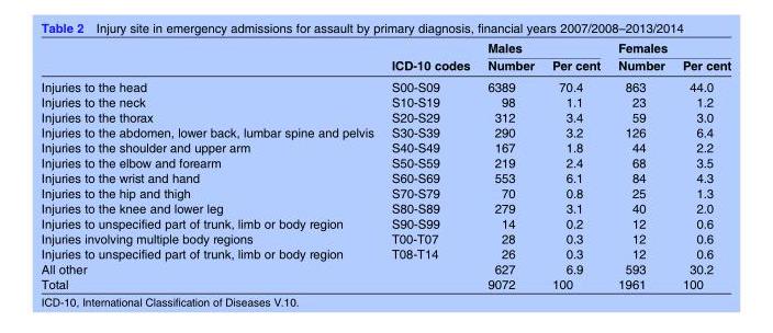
<table><thead><tr><td rowspan="2"></td><td rowspan="2">ICD-10 codes</td><td colspan="2">Males</td><td colspan="2">Females</td></tr><tr><td>Number</td><td>Per cent</td><td>Number</td><td>Per cent</td></tr></thead><tbody><tr><td>Injuries to the head</td><td>S00-S09</td><td>6389</td><td>70.4</td><td>863</td><td>44.0</td></tr><tr><td>Injuries to the neck</td><td>S10-S19</td><td>98</td><td>1.1</td><td>23</td><td>1.2</td></tr><tr><td>Injuries to the thorax</td><td>S20-S29</td><td>312</td><td>3.4</td><td>59</td><td>3.0</td></tr><tr><td>Injuries to the abdomen, lower back, lumbar spine and pelvis</td><td>S30-S39</td><td>290</td><td>3.2</td><td>126</td><td>6.4</td></tr><tr><td>Injuries to the shoulder and upper arm</td><td>S40-S49</td><td>167</td><td>1.8</td><td>44</td><td>2.2</td></tr><tr><td>Injuries to the elbow and forearm</td><td>S50-S59</td><td>219</td><td>2.4</td><td>68</td><td>3.5</td></tr><tr><td>Injuries to the wrist and hand</td><td>S60-S69</td><td>553</td><td>6.1</td><td>84</td><td>4.3</td></tr><tr><td>Injuries to the hip and thigh</td><td>S70-S79</td><td>70</td><td>0.8</td><td>25</td><td>1.3</td></tr><tr><td>Injuries to the knee and lower leg</td><td>S80-S89</td><td>279</td><td>3.1</td><td>40</td><td>2.0</td></tr><tr><td>Injuries to unspecified part of trunk, limb or body region</td><td>S90-S99</td><td>14</td><td>0.2</td><td>12</td><td>0.6</td></tr><tr><td>Injuries involving multiple body regions</td><td>T00-T07</td><td>28</td><td>0.3</td><td>12</td><td>0.6</td></tr><tr><td>Injuries to unspecified part of trunk, limb or body region</td><td>T08-T14</td><td>26</td><td>0.3</td><td>12</td><td>0.6</td></tr><tr><td>All other</td><td></td><td>627</td><td>6.9</td><td>593</td><td>30.2</td></tr><tr><td>Total</td><td></td><td>9072</td><td>100</td><td>1961</td><td>100</td></tr></tbody></table>